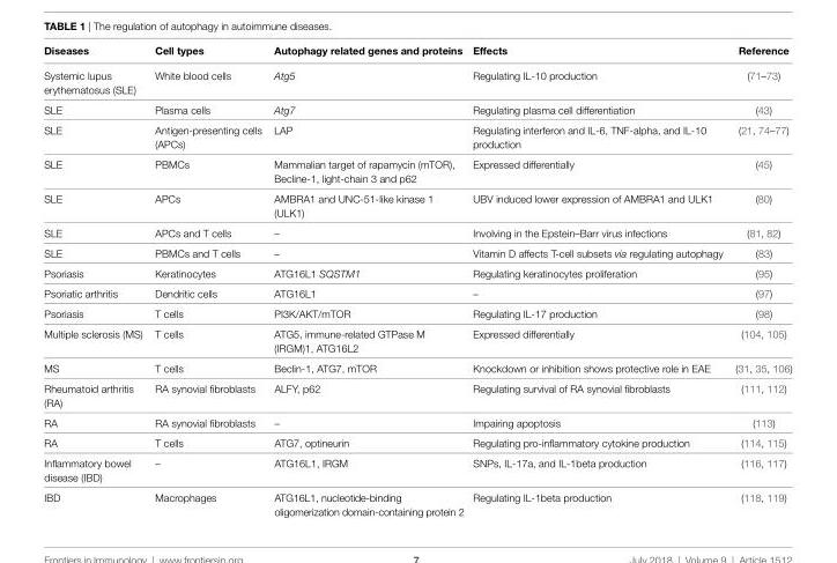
<table><thead><tr><td>Diseases</td><td>Cell types</td><td>Autophagy related genes and proteins</td><td>effects</td><td>Reference</td></tr></thead><tbody><tr><td>Systemic lupus erythematosus (SLE)</td><td>White blood cells</td><td>Atg5</td><td>Regulating IL10 production</td><td>(71–73)</td></tr><tr><td>SLE</td><td>Plasma cells</td><td>Atg7</td><td>Regulating plasma cell differentiation</td><td>(43)</td></tr><tr><td>SLE</td><td>Antigenpresenting cells (APCs)</td><td>LAP</td><td>Regulating interferon and IL6, TNFalpha, and IL10 production</td><td>(21, 74–77)</td></tr><tr><td>SLE</td><td>PBMCs</td><td>Mammalian target of rapamycin (mTOR), Becline1, lightchain 3 and p62</td><td>Expressed differentially</td><td>(45)</td></tr><tr><td>SLE</td><td>APCs</td><td>AMBRA1 and UNC51like kinase 1 (ULK1)</td><td>UBV induced lower expression of AMBRA1 and ULK1</td><td>(80)</td></tr><tr><td>SLE</td><td>APCs and T cells</td><td>–</td><td>Involving in the Epstein–Barr virus infections</td><td>(81, 82)</td></tr><tr><td>SLE</td><td>PBMCs and T cells</td><td>–</td><td>Vitamin D affects Tcell subsets via regulating autophagy</td><td>(83)</td></tr><tr><td>Psoriasis</td><td>Keratinocytes</td><td>ATG16L1 SQSTM1</td><td>Regulating keratinocytes proliferation</td><td>(95)</td></tr><tr><td>Psoriatic arthritis</td><td>Dendritic cells</td><td>ATG16L1</td><td>–</td><td>(97)</td></tr><tr><td>Psoriasis</td><td>T cells</td><td>PI3K/AKT/mTOR</td><td>Regulating IL17 production</td><td>(98)</td></tr><tr><td>Multiple sclerosis (MS)</td><td>T cells</td><td>ATG5, immunerelated GTPase M (IRGM)1, ATG16L2</td><td>Expressed differentially</td><td>(104, 105)</td></tr><tr><td>MS</td><td>T cells</td><td>Beclin1, ATG7, mTOR</td><td>Knockdown or inhibition shows protective role in EAE</td><td>(31, 35, 106)</td></tr><tr><td>Rheumatoid arthritis (RA)</td><td>RA synovial fibroblasts</td><td>ALFY, p62</td><td>Regulating survival of RA synovial fibroblasts</td><td>(111, 112)</td></tr><tr><td>RA</td><td>RA synovial fibroblasts</td><td>–</td><td>Impairing apoptosis</td><td>(113)</td></tr><tr><td>RA</td><td>T cells</td><td>ATG7, optineurin</td><td>Regulating proinflammatory cytokine production</td><td>(114, 115)</td></tr><tr><td>Inflammatory bowel disease (IBD)</td><td>–</td><td>ATG16L1, IRGM</td><td>SNPs, IL17a, and IL1beta production</td><td>(116, 117)</td></tr><tr><td>IBD</td><td>Macrophages</td><td>ATG16L1, nucleotidebinding oligomerization domaincontaining protein 2</td><td>Regulating IL1beta production</td><td>(118, 119)</td></tr></tbody></table>